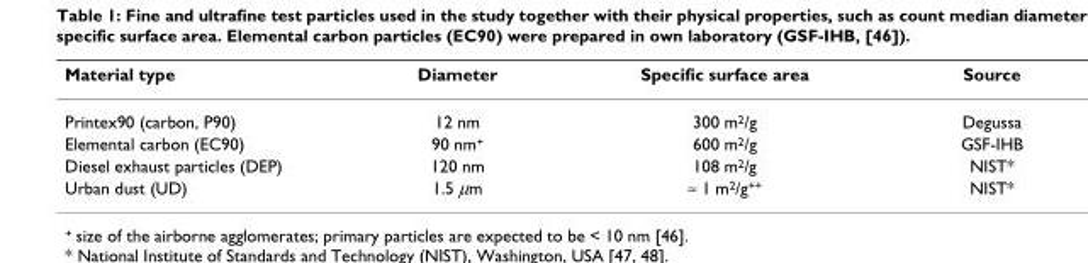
<table><thead><tr><td>Material type</td><td>Diameter</td><td>Specific surface area</td><td>Source</td></tr></thead><tbody><tr><td>Printex90 (carbon, P90)</td><td>12 nm</td><td>300 m<sup>2</sup>/g</td><td>Degussa</td></tr><tr><td>Elemental carbon (EC90)</td><td>90 nm<sup>+</sup></td><td>600 m<sup>2</sup>/g</td><td>GSF-IHB</td></tr><tr><td>Diesel exhaust particles (DEP)</td><td>120 nm</td><td>108 m<sup>2</sup>/g</td><td>NIST*</td></tr><tr><td>Urban dust (UD)</td><td>1.5 µm</td><td>≈ 1 m<sup>2</sup>/g<sup>++</sup></td><td>NIST*</td></tr></tbody></table>